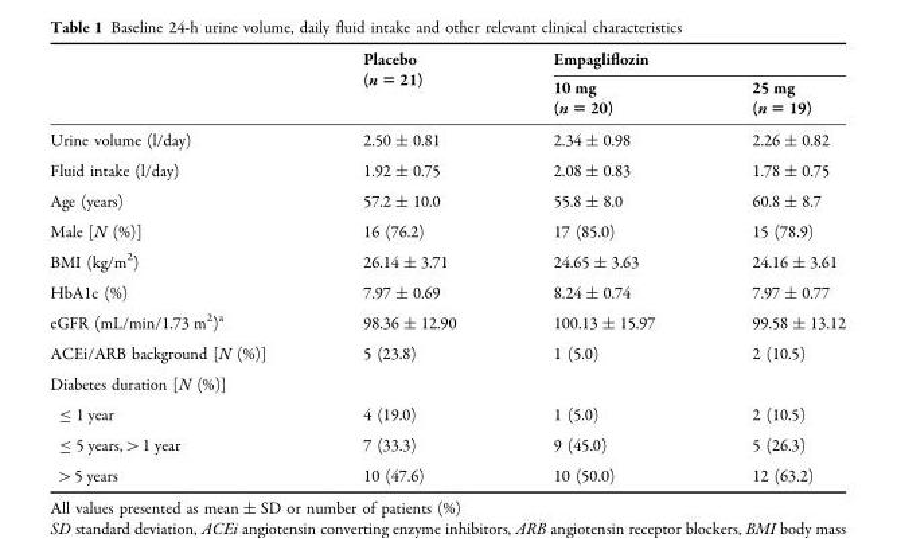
<table><thead><tr><td rowspan="2"></td><td rowspan="2">Placebo (n = 21)</td><td colspan="2">Empagliflozin</td></tr><tr><td>10 mg (n = 20)</td><td>25 mg (n = 19)</td></tr></thead><tbody><tr><td>Urine volume (l/day)</td><td>2.50 ± 0.81</td><td>2.34 ± 0.98</td><td>2.26 ± 0.82</td></tr><tr><td>Fluid intake (l/day)</td><td>1.92 ± 0.75</td><td>2.08 ± 0.83</td><td>1.78 ± 0.75</td></tr><tr><td>Age (years)</td><td>57.2 ± 10.0</td><td>55.8 ± 8.0</td><td>60.8 ± 8.7</td></tr><tr><td>Male [N (%)]</td><td>16 (76.2)</td><td>17 (85.0)</td><td>15 (78.9)</td></tr><tr><td>BMI (kg/m<sup>2</sup>)</td><td>26.14 ± 3.71</td><td>24.65 ± 3.63</td><td>24.16 ± 3.61</td></tr><tr><td>HbA1c (%)</td><td>7.97 ± 0.69</td><td>8.24 ± 0.74</td><td>7.97 ± 0.77</td></tr><tr><td>eGFR (mL/min/1.73 m<sup>2</sup>)<sup>a</sup></td><td>98.36 ± 12.90</td><td>100.13 ± 15.97</td><td>99.58 ± 13.12</td></tr><tr><td>ACEi/ARB background [N (%)]</td><td>5 (23.8)</td><td>1 (5.0)</td><td>2 (10.5)</td></tr><tr><td colspan="4">Diabetes duration [N (%)]</td></tr><tr><td>≤ 1 year</td><td>4 (19.0)</td><td>1 (5.0)</td><td>2 (10.5)</td></tr><tr><td>≤ 5 years,&gt;1 year</td><td>7 (33.3)</td><td>9 (45.0)</td><td>5 (26.3)</td></tr><tr><td>&gt;5 years</td><td>10 (47.6)</td><td>10 (50.0)</td><td>12 (63.2)</td></tr></tbody></table>